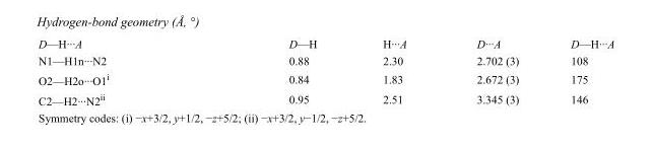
<table><tbody><tr><td>D—H···A</td><td>D—H</td><td>H···A</td><td>D···A</td><td>D—H···A</td></tr><tr><td>N1—H1n···N2</td><td>0.88</td><td>2.30</td><td>2.702 (3)</td><td>108</td></tr><tr><td>O2—H2o···O1<sup>i</sup></td><td>0.84</td><td>1.83</td><td>2.672 (3)</td><td>175</td></tr><tr><td>C2—H2···N2<sup>ii</sup></td><td>0.95</td><td>2.51</td><td>3.345 (3)</td><td>146</td></tr></tbody></table>